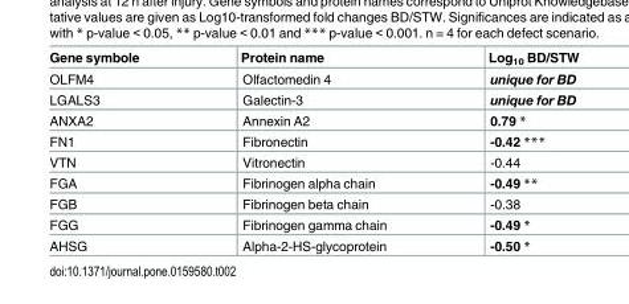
<table><thead><tr><td>Gene symbole</td><td>Protein name</td><td>Log<sub>10</sub> BD/STW</td></tr></thead><tbody><tr><td>OLFM4</td><td>Olfactomedin 4</td><td>unique for BD</td></tr><tr><td>LGALS3</td><td>Galectin-3</td><td>unique for BD</td></tr><tr><td>ANXA2</td><td>Annexin A2</td><td>0.79 *</td></tr><tr><td>FN1</td><td>Fibronectin</td><td>-0.42 ***</td></tr><tr><td>VTN</td><td>Vitronectin</td><td>-0.44</td></tr><tr><td>FGA</td><td>Fibrinogen alpha chain</td><td>-0.49 **</td></tr><tr><td>FGB</td><td>Fibrinogen beta chain</td><td>-0.38</td></tr><tr><td>FGG</td><td>Fibrinogen gamma chain</td><td>-0.49 *</td></tr><tr><td>AHSG</td><td>Alpha-2-HS-glycoprotein</td><td>-0.50 *</td></tr></tbody></table>